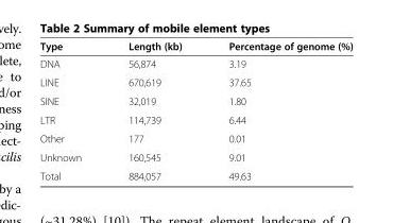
<table><thead><tr><td>Type</td><td>Length (kb)</td><td>Percentage of genome (%)</td></tr></thead><tbody><tr><td>DNA</td><td>56,874</td><td>3.19</td></tr><tr><td>LINE</td><td>670,619</td><td>37.65</td></tr><tr><td>SINE</td><td>32,019</td><td>1.80</td></tr><tr><td>LTR</td><td>114,739</td><td>6.44</td></tr><tr><td>Other</td><td>177</td><td>0.01</td></tr><tr><td>Unknown</td><td>160,545</td><td>9.01</td></tr><tr><td>Total</td><td>884,057</td><td>49.63</td></tr></tbody></table>